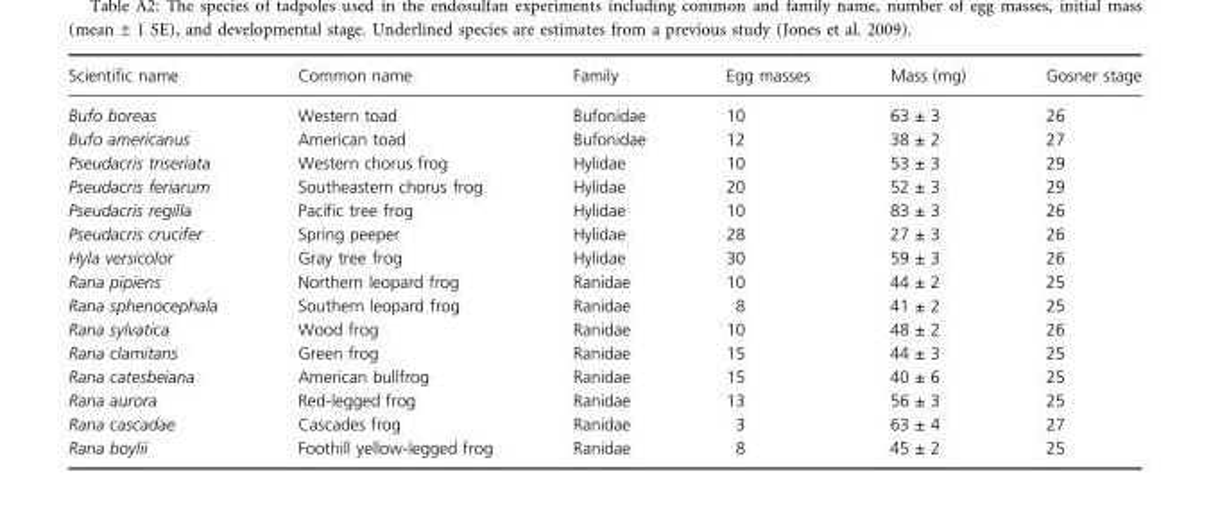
<table><thead><tr><td>Scientific name</td><td>Common name</td><td>Family</td><td>Egg masses</td><td>Mass (mg)</td><td>Gosner stage</td></tr></thead><tbody><tr><td>Bufo boreas</td><td>Western toad</td><td>Bufonidae</td><td>10</td><td>63 ± 3</td><td>26</td></tr><tr><td>Bufo americanus</td><td>American toad</td><td>Bufonidae</td><td>12</td><td>38 ± 2</td><td>27</td></tr><tr><td>Pseudacris triseriata</td><td>Western chorus frog</td><td>Hylidae</td><td>10</td><td>53 ± 3</td><td>29</td></tr><tr><td>Pseudacris feriarum</td><td>Southeastern chorus frog</td><td>Hylidae</td><td>20</td><td>52 ± 3</td><td>29</td></tr><tr><td>Pseudacris regilla</td><td>Pacific tree frog</td><td>Hylidae</td><td>10</td><td>83 ± 3</td><td>26</td></tr><tr><td>Pseudacris crucifer</td><td>Spring peeper</td><td>Hylidae</td><td>28</td><td>27 ± 3</td><td>26</td></tr><tr><td>Hyla versicolor</td><td>Gray tree frog</td><td>Hylidae</td><td>30</td><td>59 ± 3</td><td>26</td></tr><tr><td>Rana pipiens</td><td>Northern leopard frog</td><td>Ranidae</td><td>10</td><td>44 ± 2</td><td>25</td></tr><tr><td>Rana sphenocephala</td><td>Southern leopard frog</td><td>Ranidae</td><td>8</td><td>41 ± 2</td><td>25</td></tr><tr><td>Rana sylvatica</td><td>Wood frog</td><td>Ranidae</td><td>10</td><td>48 ± 2</td><td>26</td></tr><tr><td>Rana clamitans</td><td>Green frog</td><td>Ranidae</td><td>15</td><td>44 ± 3</td><td>25</td></tr><tr><td>Rana catesbeiana</td><td>American bullfrog</td><td>Ranidae</td><td>15</td><td>40 ± 6</td><td>25</td></tr><tr><td>Rana aurora</td><td>Red-legged frog</td><td>Ranidae</td><td>13</td><td>56 ± 3</td><td>25</td></tr><tr><td>Rana cascadae</td><td>Cascades frog</td><td>Ranidae</td><td>3</td><td>63 ± 4</td><td>27</td></tr><tr><td>Rana boylii</td><td>Foothill yellow-legged frog</td><td>Ranidae</td><td>8</td><td>45 ± 2</td><td>25</td></tr></tbody></table>